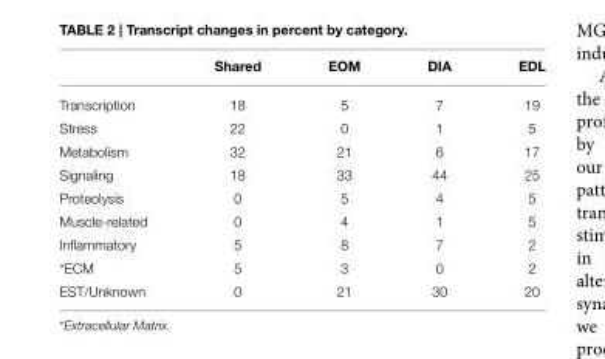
<table><thead><tr><td></td><td>Shared</td><td>EOM</td><td>DIA</td><td>EDL</td></tr></thead><tbody><tr><td>Transcription</td><td>18</td><td>5</td><td>7</td><td>19</td></tr><tr><td>Stress</td><td>22</td><td>0</td><td>1</td><td>5</td></tr><tr><td>Metabolism</td><td>32</td><td>21</td><td>6</td><td>17</td></tr><tr><td>Signaling</td><td>18</td><td>33</td><td>44</td><td>25</td></tr><tr><td>Proteolysis</td><td>0</td><td>5</td><td>4</td><td>5</td></tr><tr><td>Muscle-related</td><td>0</td><td>4</td><td>1</td><td>5</td></tr><tr><td>Inflammatory</td><td>5</td><td>8</td><td>7</td><td>2</td></tr><tr><td>*ECM</td><td>5</td><td>3</td><td>0</td><td>2</td></tr><tr><td>EST/Unknown</td><td>0</td><td>21</td><td>30</td><td>20</td></tr></tbody></table>